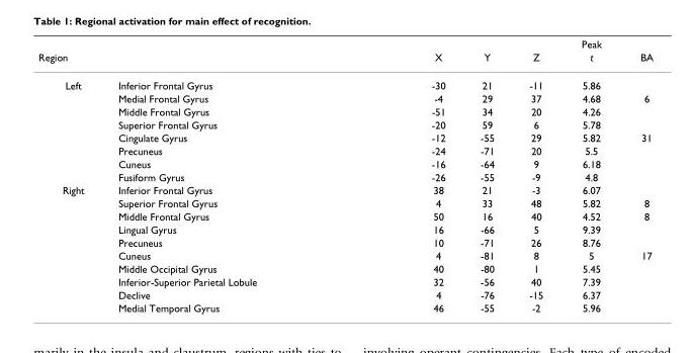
<table><thead><tr><td rowspan="2">Region</td><td rowspan="2"></td><td rowspan="2">X</td><td rowspan="2">Y</td><td rowspan="2">Z</td><td rowspan="2">Peak t</td><td rowspan="2">BA</td></tr><tr></tr></thead><tbody><tr><td rowspan="8">Left</td><td>Inferior Frontal Gyrus</td><td>-30</td><td>21</td><td>-11</td><td>5.86</td><td></td></tr><tr><td>Medial Frontal Gyrus</td><td>-4</td><td>29</td><td>37</td><td>4.68</td><td>6</td></tr><tr><td>Middle Frontal Gyrus</td><td>-51</td><td>34</td><td>20</td><td>4.26</td><td></td></tr><tr><td>Superior Frontal Gyrus</td><td>-20</td><td>59</td><td>6</td><td>5.78</td><td></td></tr><tr><td>Cingulate Gyrus</td><td>-12</td><td>-55</td><td>29</td><td>5.82</td><td>31</td></tr><tr><td>Precuneus</td><td>-24</td><td>-71</td><td>20</td><td>5.5</td><td></td></tr><tr><td>Cuneus</td><td>-16</td><td>-64</td><td>9</td><td>6.18</td><td></td></tr><tr><td>Fusiform Gyrus</td><td>-26</td><td>-55</td><td>-9</td><td>4.8</td><td></td></tr><tr><td rowspan="10">Right</td><td>Inferior Frontal Gyrus</td><td>38</td><td>21</td><td>-3</td><td>6.07</td><td></td></tr><tr><td>Superior Frontal Gyrus</td><td>4</td><td>33</td><td>48</td><td>5.82</td><td>8</td></tr><tr><td>Middle Frontal Gyrus</td><td>50</td><td>16</td><td>40</td><td>4.52</td><td>8</td></tr><tr><td>Lingual Gyrus</td><td>16</td><td>-66</td><td>5</td><td>9.39</td><td></td></tr><tr><td>Precuneus</td><td>10</td><td>-71</td><td>26</td><td>8.76</td><td></td></tr><tr><td>Cuneus</td><td>4</td><td>-81</td><td>8</td><td>5</td><td>17</td></tr><tr><td>Middle Occipital Gyrus</td><td>40</td><td>-80</td><td>1</td><td>5.45</td><td></td></tr><tr><td>Inferior-Superior Parietal Lobule</td><td>32</td><td>-56</td><td>40</td><td>7.39</td><td></td></tr><tr><td>Declive</td><td>4</td><td>-76</td><td>-15</td><td>6.37</td><td></td></tr><tr><td>Medial Temporal Gyrus</td><td>46</td><td>-55</td><td>-2</td><td>5.96</td><td></td></tr></tbody></table>